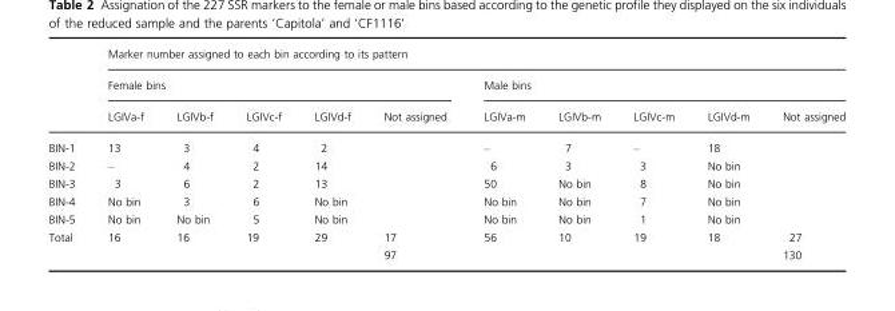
<table><thead><tr><td rowspan="3"></td><td colspan="10">Marker number assigned to each bin according to its pattern</td></tr><tr><td colspan="5">Female bins</td><td colspan="5">Male bins</td></tr><tr><td>LGIVa-f</td><td>LGIVb-f</td><td>LGIVc-f</td><td>LGIVd-f</td><td>Not assigned</td><td>LGIVa-m</td><td>LGIVb-m</td><td>LGIVc-m</td><td>LGIVd-m</td><td>Not assigned</td></tr></thead><tbody><tr><td>BIN-1</td><td>13</td><td>3</td><td>4</td><td>2</td><td></td><td>–</td><td>7</td><td>–</td><td>18</td><td></td></tr><tr><td>BIN-2</td><td>–</td><td>4</td><td>2</td><td>14</td><td></td><td>6</td><td>3</td><td>3</td><td>No bin</td><td></td></tr><tr><td>BIN-3</td><td>3</td><td>6</td><td>2</td><td>13</td><td></td><td>50</td><td>No bin</td><td>8</td><td>No bin</td><td></td></tr><tr><td>BIN-4</td><td>No bin</td><td>3</td><td>6</td><td>No bin</td><td></td><td>No bin</td><td>No bin</td><td>7</td><td>No bin</td><td></td></tr><tr><td>BIN-5</td><td>No bin</td><td>No bin</td><td>5</td><td>No bin</td><td></td><td>No bin</td><td>No bin</td><td>1</td><td>No bin</td><td></td></tr><tr><td rowspan="2">Total</td><td>16</td><td>16</td><td>19</td><td>29</td><td>17</td><td>56</td><td>10</td><td>19</td><td>18</td><td>27</td></tr><tr><td></td><td></td><td></td><td></td><td>97</td><td></td><td></td><td></td><td></td><td>130</td></tr></tbody></table>